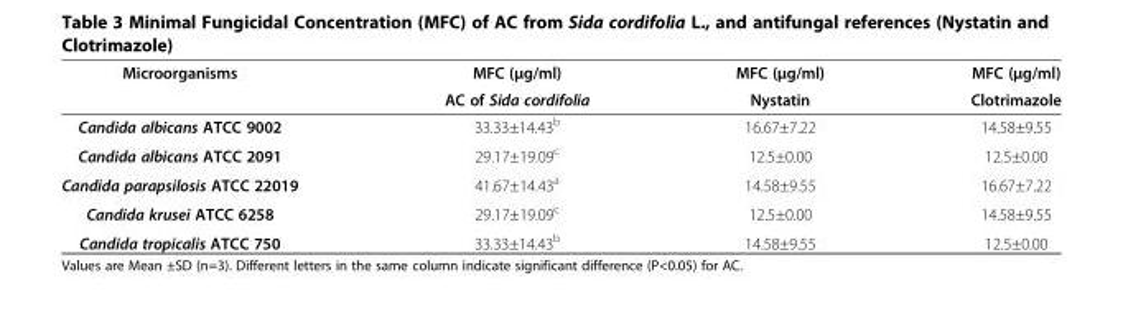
<table><thead><tr><td rowspan="2">Microorganisms</td><td rowspan="2">MFC (μg/ml) AC of Sida cordifolia</td><td rowspan="2">MFC (μg/ml) Nystatin</td><td rowspan="2">MFC (μg/ml) Clotrimazole</td></tr><tr></tr></thead><tbody><tr><td>Candida albicans ATCC 9002</td><td>33.33±14.43<sup>b</sup></td><td>16.67±7.22</td><td>14.58±9.55</td></tr><tr><td>Candida albicans ATCC 2091</td><td>29.17±19.09<sup>c</sup></td><td>12.5±0.00</td><td>12.5±0.00</td></tr><tr><td>Candida parapsilosis ATCC 22019</td><td>41.67±14.43<sup>a</sup></td><td>14.58±9.55</td><td>16.67±7.22</td></tr><tr><td>Candida krusei ATCC 6258</td><td>29.17±19.09<sup>c</sup></td><td>12.5±0.00</td><td>14.58±9.55</td></tr><tr><td>Candida tropicalis ATCC 750</td><td>33.33±14.43<sup>b</sup></td><td>14.58±9.55</td><td>12.5±0.00</td></tr></tbody></table>